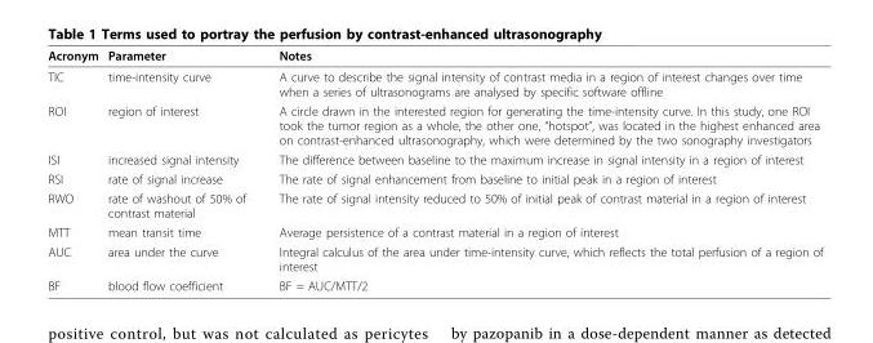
<table><thead><tr><td>Acronym</td><td>Parameter</td><td>Notes</td></tr></thead><tbody><tr><td>TIC</td><td>time-intensity curve</td><td>A curve to describe the signal intensity of contrast media in a region of interest changes over time when a series of ultrasonograms are analysed by specific software offline</td></tr><tr><td>ROI</td><td>region of interest</td><td>A circle drawn in the interested region for generating the time-intensity curve. In this study, one ROI took the tumor region as a whole, the other one, “hotspot”, was located in the highest enhanced area on contrast-enhanced ultrasonography, which were determined by the two sonography investigators</td></tr><tr><td>ISI</td><td>increased signal intensity</td><td>The difference between baseline to the maximum increase in signal intensity in a region of interest</td></tr><tr><td>RSI</td><td>rate of signal increase</td><td>The rate of signal enhancement from baseline to initial peak in a region of interest</td></tr><tr><td>RWO</td><td>rate of washout of 50% of contrast material</td><td>The rate of signal intensity reduced to 50% of initial peak of contrast material in a region of interest</td></tr><tr><td>MTT</td><td>mean transit time</td><td>Average persistence of a contrast material in a region of interest</td></tr><tr><td>AUC</td><td>area under the curve</td><td>Integral calculus of the area under time-intensity curve, which reflects the total perfusion of a region of interest</td></tr><tr><td>BF</td><td>blood flow coefficient</td><td>BF = AUC/MTT/2</td></tr></tbody></table>